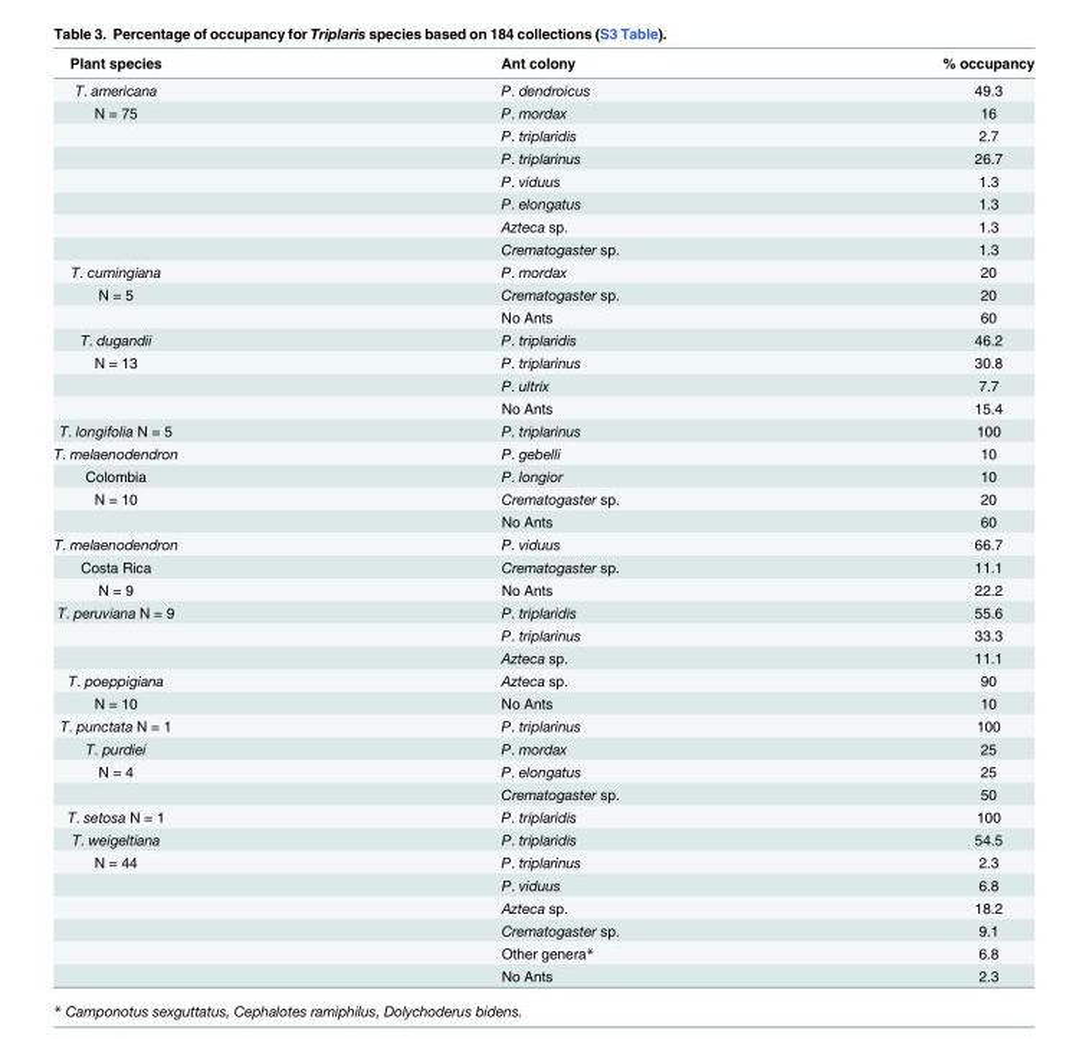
<table><thead><tr><td>Plant species</td><td>Ant colony</td><td>% occupancy</td></tr></thead><tbody><tr><td>T. americana</td><td>P. dendroicus</td><td>49.3</td></tr><tr><td rowspan="7">N = 75</td><td>P. mordax</td><td>16</td></tr><tr><td>P. triplaridis</td><td>2.7</td></tr><tr><td>P. triplarinus</td><td>26.7</td></tr><tr><td>P. viduus</td><td>1.3</td></tr><tr><td>P. elongatus</td><td>1.3</td></tr><tr><td>Azteca sp.</td><td>1.3</td></tr><tr><td>Crematogaster sp.</td><td>1.3</td></tr><tr><td>T. cumingiana</td><td>P. mordax</td><td>20</td></tr><tr><td rowspan="2">N = 5</td><td>Crematogaster sp.</td><td>20</td></tr><tr><td>No Ants</td><td>60</td></tr><tr><td>T. dugandii</td><td>P. triplaridis</td><td>46.2</td></tr><tr><td rowspan="3">N = 13</td><td>P. triplarinus</td><td>30.8</td></tr><tr><td>P. ultrix</td><td>7.7</td></tr><tr><td>No Ants</td><td>15.4</td></tr><tr><td>T. longifolia N = 5</td><td>P. triplarinus</td><td>100</td></tr><tr><td>T. melaenodendron</td><td>P. gebelli</td><td>10</td></tr><tr><td>Colombia</td><td>P. longior</td><td>10</td></tr><tr><td rowspan="2">N = 10</td><td>Crematogaster sp.</td><td>20</td></tr><tr><td>No Ants</td><td>60</td></tr><tr><td>T. melaenodendron</td><td>P. viduus</td><td>66.7</td></tr><tr><td>Costa Rica</td><td>Crematogaster sp.</td><td>11.1</td></tr><tr><td>N = 9</td><td>No Ants</td><td>22.2</td></tr><tr><td rowspan="3">T. peruviana N = 9</td><td>P. triplaridis</td><td>55.6</td></tr><tr><td>P. triplarinus</td><td>33.3</td></tr><tr><td>Azteca sp.</td><td>11.1</td></tr><tr><td>T. poeppigiana</td><td>Azteca sp.</td><td>90</td></tr><tr><td>N = 10</td><td>No Ants</td><td>10</td></tr><tr><td>T. punctata N = 1</td><td>P. triplarinus</td><td>100</td></tr><tr><td>T. purdiei</td><td>P. mordax</td><td>25</td></tr><tr><td rowspan="2">N = 4</td><td>P. elongatus</td><td>25</td></tr><tr><td>Crematogaster sp.</td><td>50</td></tr><tr><td>T. setosa N = 1</td><td>P. triplaridis</td><td>100</td></tr><tr><td>T. weigeltiana</td><td>P. triplaridis</td><td>54.5</td></tr><tr><td rowspan="6">N = 44</td><td>P. triplarinus</td><td>2.3</td></tr><tr><td>P. viduus</td><td>6.8</td></tr><tr><td>Azteca sp.</td><td>18.2</td></tr><tr><td>Crematogaster sp.</td><td>9.1</td></tr><tr><td>Other genera*</td><td>6.8</td></tr><tr><td>No Ants</td><td>2.3</td></tr></tbody></table>